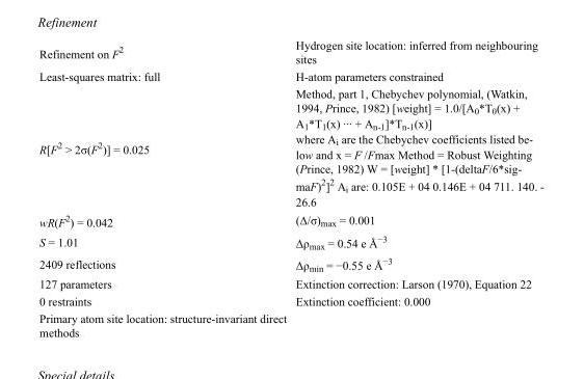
<table><tbody><tr><td>Refinement on F<sup>2</sup></td><td>Hydrogen site location: inferred from neighbouring sites</td></tr><tr><td>Least-squares matrix: full</td><td>H-atom parameters constrained</td></tr><tr><td>R[F<sup>2</sup> &gt; 2σ(F<sup>2</sup>)] = 0.025</td><td>Method, part 1, Chebychev polynomial, (Watkin, 1994, Prince, 1982) [weight] = 1.0/[A0*T0(x) + A1*T1(x) ··· + An-1]*Tn-1(x)] where Ai are the Chebychev coefficients listed be- low and x = F /Fmax Method = Robust Weighting (Prince, 1982) W = [weight] * [1-(deltaF/6*sig- maF)2]2 Ai are: 0.105E + 04 0.146E + 04 711. 140. - 26.6</td></tr><tr><td>wR(F<sup>2</sup>) = 0.042</td><td>(Δ/σ)<sub>max</sub> = 0.001</td></tr><tr><td>S = 1.01</td><td>Δρ<sub>max</sub> = 0.54 e Å<sup>−3</sup></td></tr><tr><td>2409 reflections</td><td>Δρ<sub>min</sub> = −0.55 e Å<sup>−3</sup></td></tr><tr><td>127 parameters</td><td>Extinction correction: Larson (1970), Equation 22</td></tr><tr><td>0 restraints</td><td>Extinction coefficient: 0.000</td></tr><tr><td>Primary atom site location: structure-invariant direct methods</td><td></td></tr></tbody></table>